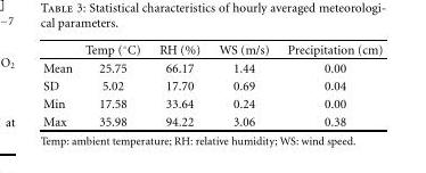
<table><thead><tr><td></td><td>Temp (◦C)</td><td>RH (%)</td><td>WS (m/s)</td><td>Precipitation (cm)</td></tr></thead><tbody><tr><td>Mean</td><td>25.75</td><td>66.17</td><td>1.44</td><td>0.00</td></tr><tr><td>SD</td><td>5.02</td><td>17.70</td><td>0.69</td><td>0.04</td></tr><tr><td>Min</td><td>17.58</td><td>33.64</td><td>0.24</td><td>0.00</td></tr><tr><td>Max</td><td>35.98</td><td>94.22</td><td>3.06</td><td>0.38</td></tr></tbody></table>